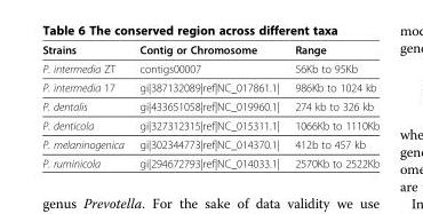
<table><thead><tr><td>Strains</td><td>Contig or Chromosome</td><td>Range</td></tr></thead><tbody><tr><td>P. intermedia ZT</td><td>contigs00007</td><td>56Kb to 95Kb</td></tr><tr><td>P. intermedia 17</td><td>gi|387132089|ref|NC_017861.1|</td><td>986Kb to 1024 kb</td></tr><tr><td>P. dentalis</td><td>gi|433651058|ref|NC_019960.1|</td><td>274 kb to 326 kb</td></tr><tr><td>P. denticola</td><td>gi|327312315|ref|NC_015311.1|</td><td>1066Kb to 1110Kb</td></tr><tr><td>P. melaninogenica</td><td>gi|302344773|ref|NC_014370.1|</td><td>412b to 457 kb</td></tr><tr><td>P. ruminicola</td><td>gi|294672793|ref|NC_014033.1|</td><td>2570Kb to 2522Kb</td></tr></tbody></table>